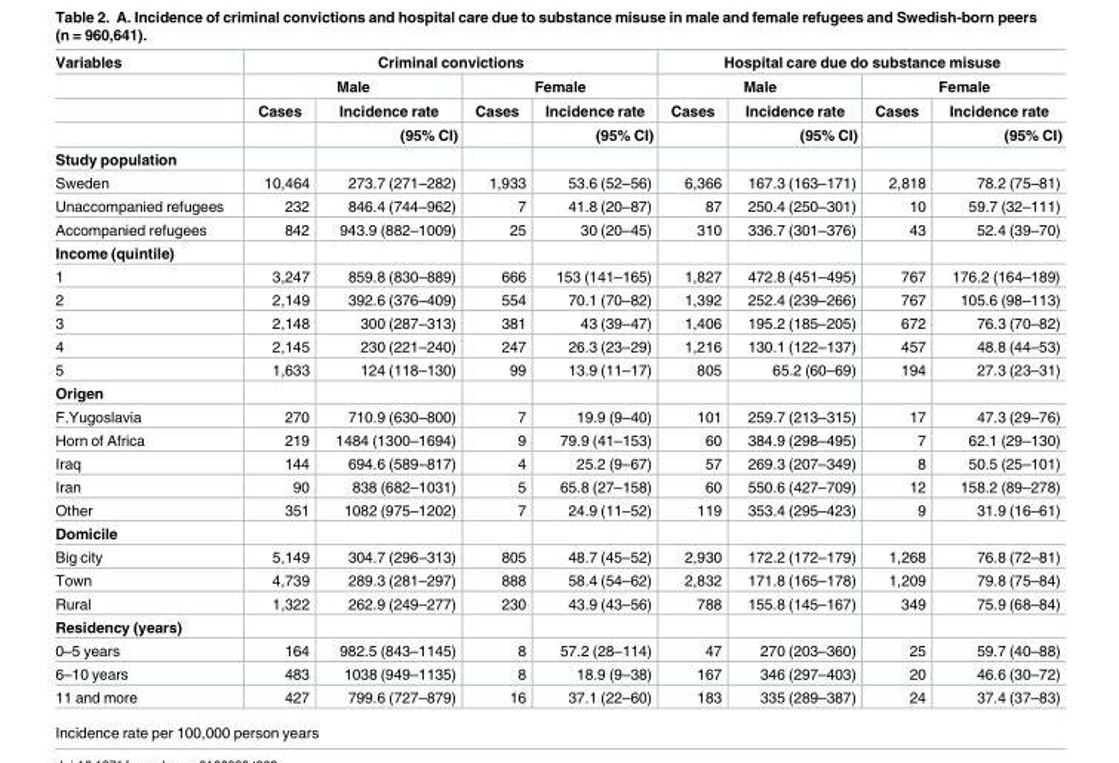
<table><thead><tr><td rowspan="4">Variables</td><td colspan="4">Criminal convictions</td><td colspan="4">Hospital care due do substance misuse</td></tr><tr><td colspan="2">Male</td><td colspan="2">Female</td><td colspan="2">Male</td><td colspan="2">Female</td></tr><tr><td rowspan="2">Cases</td><td rowspan="2">Incidence rate (95% CI)</td><td rowspan="2">Cases</td><td rowspan="2">Incidence rate (95% CI)</td><td rowspan="2">Cases</td><td rowspan="2">Incidence rate (95% CI)</td><td rowspan="2">Cases</td><td rowspan="2">Incidence rate (95% CI)</td></tr><tr></tr></thead><tbody><tr><td colspan="9">Study population</td></tr><tr><td>Sweden</td><td>10,464</td><td>273.7 (271–282)</td><td>1,933</td><td>53.6 (52–56)</td><td>6,366</td><td>167.3 (163–171)</td><td>2,818</td><td>78.2 (75–81)</td></tr><tr><td>Unaccompanied refugees</td><td>232</td><td>846.4 (744–962)</td><td>7</td><td>41.8 (20–87)</td><td>87</td><td>250.4 (250–301)</td><td>10</td><td>59.7 (32–111)</td></tr><tr><td>Accompanied refugees</td><td>842</td><td>943.9 (882–1009)</td><td>25</td><td>30 (20–45)</td><td>310</td><td>336.7 (301–376)</td><td>43</td><td>52.4 (39–70)</td></tr><tr><td colspan="9">Income (quintile)</td></tr><tr><td>1</td><td>3,247</td><td>859.8 (830–889)</td><td>666</td><td>153 (141–165)</td><td>1,827</td><td>472.8 (451–495)</td><td>767</td><td>176.2 (164–189)</td></tr><tr><td>2</td><td>2,149</td><td>392.6 (376–409)</td><td>554</td><td>70.1 (70–82)</td><td>1,392</td><td>252.4 (239–266)</td><td>767</td><td>105.6 (98–113)</td></tr><tr><td>3</td><td>2,148</td><td>300 (287–313)</td><td>381</td><td>43 (39–47)</td><td>1,406</td><td>195.2 (185–205)</td><td>672</td><td>76.3 (70–82)</td></tr><tr><td>4</td><td>2,145</td><td>230 (221–240)</td><td>247</td><td>26.3 (23–29)</td><td>1,216</td><td>130.1 (122–137)</td><td>457</td><td>48.8 (44–53)</td></tr><tr><td>5</td><td>1,633</td><td>124 (118–130)</td><td>99</td><td>13.9 (11–17)</td><td>805</td><td>65.2 (60–69)</td><td>194</td><td>27.3 (23–31)</td></tr><tr><td colspan="9">Origen</td></tr><tr><td>F.Yugoslavia</td><td>270</td><td>710.9 (630–800)</td><td>7</td><td>19.9 (9–40)</td><td>101</td><td>259.7 (213–315)</td><td>17</td><td>47.3 (29–76)</td></tr><tr><td>Horn of Africa</td><td>219</td><td>1484 (1300–1694)</td><td>9</td><td>79.9 (41–153)</td><td>60</td><td>384.9 (298–495)</td><td>7</td><td>62.1 (29–130)</td></tr><tr><td>Iraq</td><td>144</td><td>694.6 (589–817)</td><td>4</td><td>25.2 (9–67)</td><td>57</td><td>269.3 (207–349)</td><td>8</td><td>50.5 (25–101)</td></tr><tr><td>Iran</td><td>90</td><td>838 (682–1031)</td><td>5</td><td>65.8 (27–158)</td><td>60</td><td>550.6 (427–709)</td><td>12</td><td>158.2 (89–278)</td></tr><tr><td>Other</td><td>351</td><td>1082 (975–1202)</td><td>7</td><td>24.9 (11–52)</td><td>119</td><td>353.4 (295–423)</td><td>9</td><td>31.9 (16–61)</td></tr><tr><td colspan="9">Domicile</td></tr><tr><td>Big city</td><td>5,149</td><td>304.7 (296–313)</td><td>805</td><td>48.7 (45–52)</td><td>2,930</td><td>172.2 (172–179)</td><td>1,268</td><td>76.8 (72–81)</td></tr><tr><td>Town</td><td>4,739</td><td>289.3 (281–297)</td><td>888</td><td>58.4 (54–62)</td><td>2,832</td><td>171.8 (165–178)</td><td>1,209</td><td>79.8 (75–84)</td></tr><tr><td>Rural</td><td>1,322</td><td>262.9 (249–277)</td><td>230</td><td>43.9 (43–56)</td><td>788</td><td>155.8 (145–167)</td><td>349</td><td>75.9 (68–84)</td></tr><tr><td colspan="9">Residency (years)</td></tr><tr><td>0–5 years</td><td>164</td><td>982.5 (843–1145)</td><td>8</td><td>57.2 (28–114)</td><td>47</td><td>270 (203–360)</td><td>25</td><td>59.7 (40–88)</td></tr><tr><td>6–10 years</td><td>483</td><td>1038 (949–1135)</td><td>8</td><td>18.9 (9–38)</td><td>167</td><td>346 (297–403)</td><td>20</td><td>46.6 (30–72)</td></tr><tr><td>11 and more</td><td>427</td><td>799.6 (727–879)</td><td>16</td><td>37.1 (22–60)</td><td>183</td><td>335 (289–387)</td><td>24</td><td>37.4 (37–83)</td></tr></tbody></table>